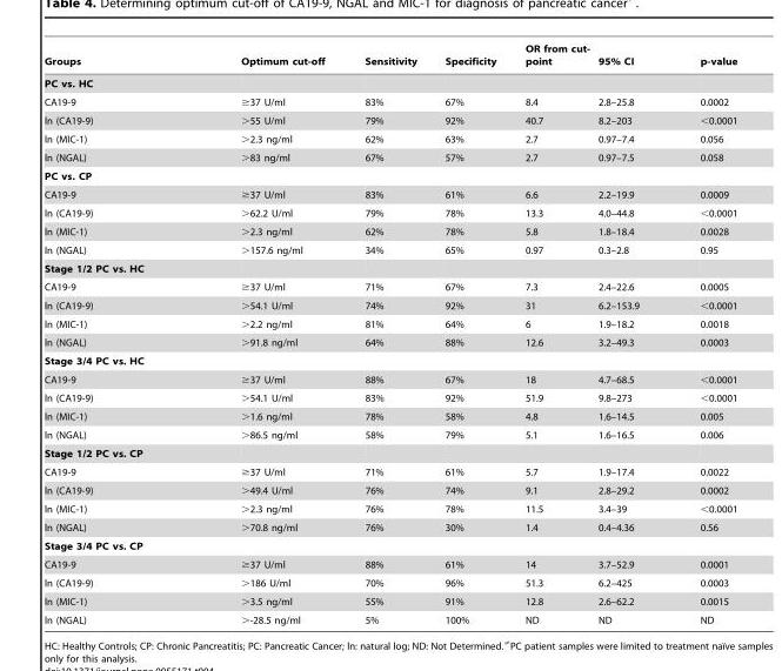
<table><thead><tr><td>Groups</td><td>Optimum cut-off</td><td>Sensitivity</td><td>Specificity</td><td>OR from cut- point</td><td>95% CI</td><td>p-value</td></tr></thead><tbody><tr><td colspan="7">PC vs. HC</td></tr><tr><td>CA19-9</td><td>≥37 U/ml</td><td>83%</td><td>67%</td><td>8.4</td><td>2.8–25.8</td><td>0.0002</td></tr><tr><td>ln (CA19-9)</td><td>&gt;55 U/ml</td><td>79%</td><td>92%</td><td>40.7</td><td>8.2–203</td><td>&lt;0.0001</td></tr><tr><td>ln (MIC-1)</td><td>&gt;2.3 ng/ml</td><td>62%</td><td>63%</td><td>2.7</td><td>0.97–7.4</td><td>0.056</td></tr><tr><td>ln (NGAL)</td><td>&gt;83 ng/ml</td><td>67%</td><td>57%</td><td>2.7</td><td>0.97–7.5</td><td>0.058</td></tr><tr><td colspan="7">PC vs. CP</td></tr><tr><td>CA19-9</td><td>≥37 U/ml</td><td>83%</td><td>61%</td><td>6.6</td><td>2.2–19.9</td><td>0.0009</td></tr><tr><td>ln (CA19-9)</td><td>&gt;62.2 U/ml</td><td>79%</td><td>78%</td><td>13.3</td><td>4.0–44.8</td><td>&lt;0.0001</td></tr><tr><td>ln (MIC-1)</td><td>&gt;2.3 ng/ml</td><td>62%</td><td>78%</td><td>5.8</td><td>1.8–18.4</td><td>0.0028</td></tr><tr><td>ln (NGAL)</td><td>&gt;157.6 ng/ml</td><td>34%</td><td>65%</td><td>0.97</td><td>0.3–2.8</td><td>0.95</td></tr><tr><td colspan="7">Stage 1/2 PC vs. HC</td></tr><tr><td>CA19-9</td><td>≥37 U/ml</td><td>71%</td><td>67%</td><td>7.3</td><td>2.4–22.6</td><td>0.0005</td></tr><tr><td>ln (CA19-9)</td><td>&gt;54.1 U/ml</td><td>74%</td><td>92%</td><td>31</td><td>6.2–153.9</td><td>&lt;0.0001</td></tr><tr><td>ln (MIC-1)</td><td>&gt;2.2 ng/ml</td><td>81%</td><td>64%</td><td>6</td><td>1.9–18.2</td><td>0.0018</td></tr><tr><td>ln (NGAL)</td><td>&gt;91.8 ng/ml</td><td>64%</td><td>88%</td><td>12.6</td><td>3.2–49.3</td><td>0.0003</td></tr><tr><td colspan="7">Stage 3/4 PC vs. HC</td></tr><tr><td>CA19-9</td><td>≥37 U/ml</td><td>88%</td><td>67%</td><td>18</td><td>4.7–68.5</td><td>&lt;0.0001</td></tr><tr><td>ln (CA19-9)</td><td>&gt;54.1 U/ml</td><td>83%</td><td>92%</td><td>51.9</td><td>9.8–273</td><td>&lt;0.0001</td></tr><tr><td>ln (MIC-1)</td><td>&gt;1.6 ng/ml</td><td>78%</td><td>58%</td><td>4.8</td><td>1.6–14.5</td><td>0.005</td></tr><tr><td>ln (NGAL)</td><td>&gt;86.5 ng/ml</td><td>58%</td><td>79%</td><td>5.1</td><td>1.6–16.5</td><td>0.006</td></tr><tr><td colspan="7">Stage 1/2 PC vs. CP</td></tr><tr><td>CA19-9</td><td>≥37 U/ml</td><td>71%</td><td>61%</td><td>5.7</td><td>1.9–17.4</td><td>0.0022</td></tr><tr><td>ln (CA19-9)</td><td>&gt;49.4 U/ml</td><td>76%</td><td>74%</td><td>9.1</td><td>2.8–29.2</td><td>0.0002</td></tr><tr><td>ln (MIC-1)</td><td>&gt;2.3 ng/ml</td><td>76%</td><td>78%</td><td>11.5</td><td>3.4–39</td><td>&lt;0.0001</td></tr><tr><td>ln (NGAL)</td><td>&gt;70.8 ng/ml</td><td>76%</td><td>30%</td><td>1.4</td><td>0.4–4.36</td><td>0.56</td></tr><tr><td colspan="7">Stage 3/4 PC vs. CP</td></tr><tr><td>CA19-9</td><td>≥37 U/ml</td><td>88%</td><td>61%</td><td>14</td><td>3.7–52.9</td><td>0.0001</td></tr><tr><td>ln (CA19-9)</td><td>&gt;186 U/ml</td><td>70%</td><td>96%</td><td>51.3</td><td>6.2–425</td><td>0.0003</td></tr><tr><td>ln (MIC-1)</td><td>&gt;3.5 ng/ml</td><td>55%</td><td>91%</td><td>12.8</td><td>2.6–62.2</td><td>0.0015</td></tr><tr><td>ln (NGAL)</td><td>&gt;-28.5 ng/ml</td><td>5%</td><td>100%</td><td>ND</td><td>ND</td><td>ND</td></tr></tbody></table>